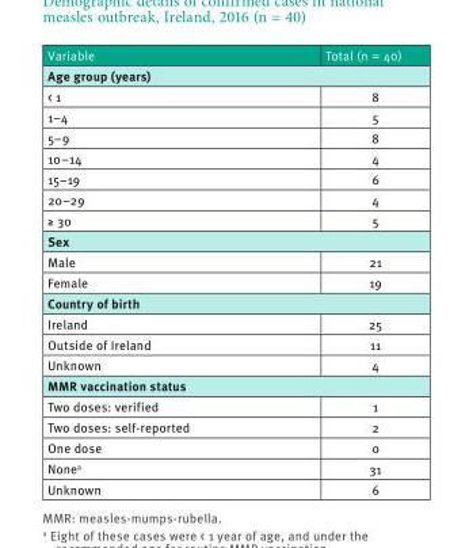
<table><thead><tr><td>Variable</td><td>Total (n = 40)</td></tr></thead><tbody><tr><td colspan="2">Age group (years)</td></tr><tr><td>&lt; 1</td><td>8</td></tr><tr><td>1–4</td><td>5</td></tr><tr><td>5–9</td><td>8</td></tr><tr><td>10–14</td><td>4</td></tr><tr><td>15–19</td><td>6</td></tr><tr><td>20–29</td><td>4</td></tr><tr><td>≥ 30</td><td>5</td></tr><tr><td colspan="2">Sex</td></tr><tr><td>Male</td><td>21</td></tr><tr><td>Female</td><td>19</td></tr><tr><td colspan="2">Country of birth</td></tr><tr><td>Ireland</td><td>25</td></tr><tr><td>Outside of Ireland</td><td>11</td></tr><tr><td>Unknown</td><td>4</td></tr><tr><td colspan="2">MMR vaccination status</td></tr><tr><td>Two doses: verified</td><td>1</td></tr><tr><td>Two doses: self-reported</td><td>2</td></tr><tr><td>One dose</td><td>0</td></tr><tr><td>None<sup>a</sup></td><td>31</td></tr><tr><td>Unknown</td><td>6</td></tr></tbody></table>